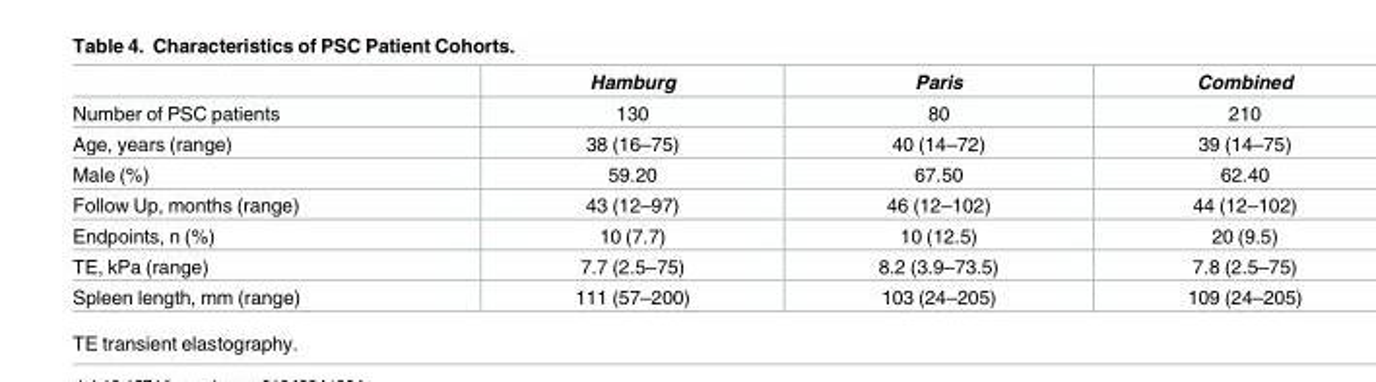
<table><thead><tr><td></td><td>Hamburg</td><td>Paris</td><td>Combined</td></tr></thead><tbody><tr><td>Number of PSC patients</td><td>130</td><td>80</td><td>210</td></tr><tr><td>Age, years (range)</td><td>38 (16–75)</td><td>40 (14–72)</td><td>39 (14–75)</td></tr><tr><td>Male (%)</td><td>59.20</td><td>67.50</td><td>62.40</td></tr><tr><td>Follow Up, months (range)</td><td>43 (12–97)</td><td>46 (12–102)</td><td>44 (12–102)</td></tr><tr><td>Endpoints, n (%)</td><td>10 (7.7)</td><td>10 (12.5)</td><td>20 (9.5)</td></tr><tr><td>TE, kPa (range)</td><td>7.7 (2.5–75)</td><td>8.2 (3.9–73.5)</td><td>7.8 (2.5–75)</td></tr><tr><td>Spleen length, mm (range)</td><td>111 (57–200)</td><td>103 (24–205)</td><td>109 (24–205)</td></tr></tbody></table>